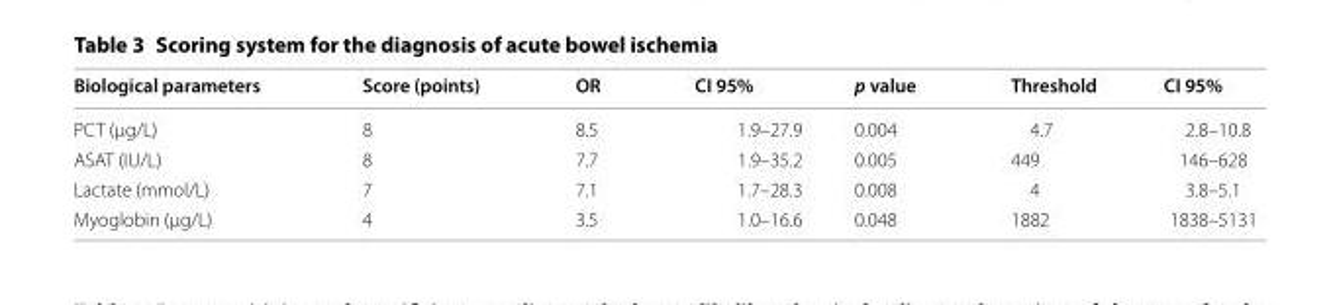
<table><thead><tr><td>Biological parameters</td><td>Score (points)</td><td>OR</td><td>CI 95%</td><td>p value</td><td>Threshold</td><td>CI 95%</td></tr></thead><tbody><tr><td>PCT (μg/L)</td><td>8</td><td>8.5</td><td>1.9–27.9</td><td>0.004</td><td>4.7</td><td>2.8–10.8</td></tr><tr><td>ASAT (IU/L)</td><td>8</td><td>7.7</td><td>1.9–35.2</td><td>0.005</td><td>449</td><td>146–628</td></tr><tr><td>Lactate (mmol/L)</td><td>7</td><td>7.1</td><td>1.7–28.3</td><td>0.008</td><td>4</td><td>3.8–5.1</td></tr><tr><td>Myoglobin (μg/L)</td><td>4</td><td>3.5</td><td>1.0–16.6</td><td>0.048</td><td>1882</td><td>1838–5131</td></tr></tbody></table>